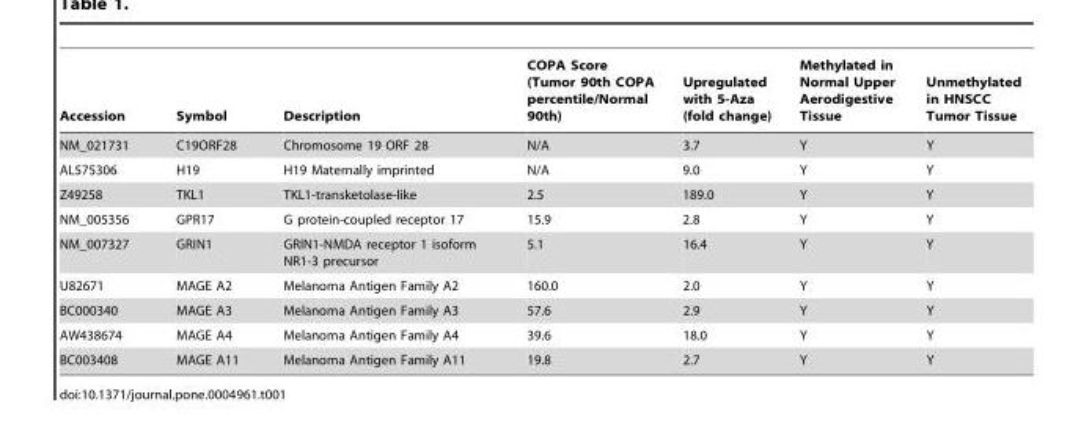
<table><thead><tr><td>Accession</td><td>Symbol</td><td>Description</td><td>COPA Score (Tumor 90th COPA percentile/Normal 90th)</td><td>Upregulated with 5-Aza (fold change)</td><td>Methylated in Normal Upper Aerodigestive Tissue</td><td>Unmethylated in HNSCC Tumor Tissue</td></tr></thead><tbody><tr><td>NM_021731</td><td>C19ORF28</td><td>Chromosome 19 ORF 28</td><td>N/A</td><td>3.7</td><td>Y</td><td>Y</td></tr><tr><td>AL575306</td><td>H19</td><td>H19 Maternally imprinted</td><td>N/A</td><td>9.0</td><td>Y</td><td>Y</td></tr><tr><td>Z49258</td><td>TKL1</td><td>TKL1-transketolase-like</td><td>2.5</td><td>189.0</td><td>Y</td><td>Y</td></tr><tr><td>NM_005356</td><td>GPR17</td><td>G protein-coupled receptor 17</td><td>15.9</td><td>2.8</td><td>Y</td><td>Y</td></tr><tr><td>NM_007327</td><td>GRIN1</td><td>GRIN1-NMDA receptor 1 isoform NR1-3 precursor</td><td>5.1</td><td>16.4</td><td>Y</td><td>Y</td></tr><tr><td>U82671</td><td>MAGE A2</td><td>Melanoma Antigen Family A2</td><td>160.0</td><td>2.0</td><td>Y</td><td>Y</td></tr><tr><td>BC000340</td><td>MAGE A3</td><td>Melanoma Antigen Family A3</td><td>57.6</td><td>2.9</td><td>Y</td><td>Y</td></tr><tr><td>AW438674</td><td>MAGE A4</td><td>Melanoma Antigen Family A4</td><td>39.6</td><td>18.0</td><td>Y</td><td>Y</td></tr><tr><td>BC003408</td><td>MAGE A11</td><td>Melanoma Antigen Family A11</td><td>19.8</td><td>2.7</td><td>Y</td><td>Y</td></tr></tbody></table>